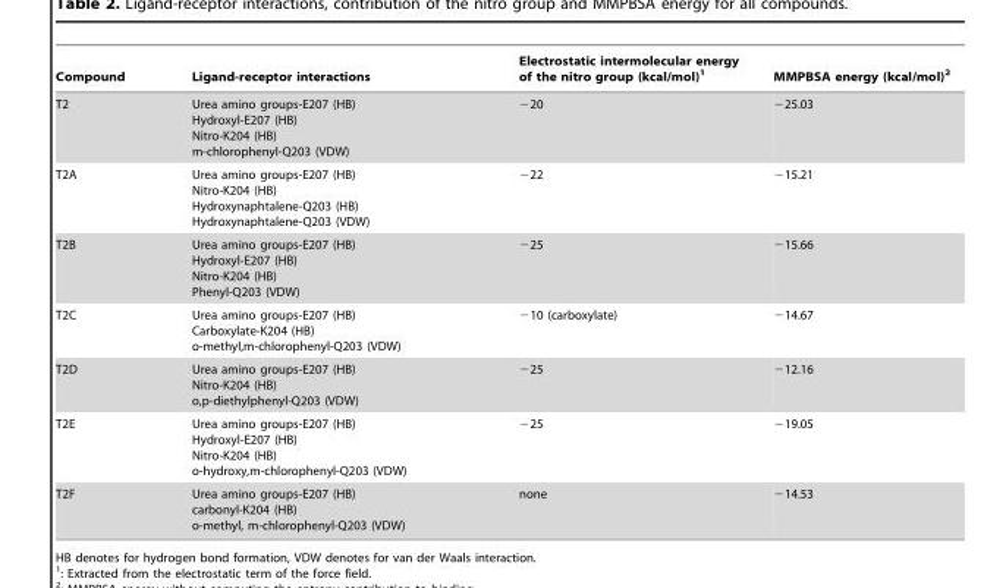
<table><thead><tr><td>Compound</td><td>Ligand-receptor interactions</td><td>Electrostatic intermolecular energy of the nitro group (kcal/mol)<sup>1</sup></td><td>MMPBSA energy (kcal/mol)<sup>2</sup></td></tr></thead><tbody><tr><td>T2</td><td>Urea amino groups-E207 (HB) Hydroxyl-E207 (HB) Nitro-K204 (HB) m-chlorophenyl-Q203 (VDW)</td><td>−20</td><td>−25.03</td></tr><tr><td>T2A</td><td>Urea amino groups-E207 (HB) Nitro-K204 (HB) Hydroxynaphtalene-Q203 (HB) Hydroxynaphtalene-Q203 (VDW)</td><td>−22</td><td>−15.21</td></tr><tr><td>T2B</td><td>Urea amino groups-E207 (HB) Hydroxyl-E207 (HB) Nitro-K204 (HB) Phenyl-Q203 (VDW)</td><td>−25</td><td>−15.66</td></tr><tr><td>T2C</td><td>Urea amino groups-E207 (HB) Carboxylate-K204 (HB) o-methyl,m-chlorophenyl-Q203 (VDW)</td><td>−10 (carboxylate)</td><td>−14.67</td></tr><tr><td>T2D</td><td>Urea amino groups-E207 (HB) Nitro-K204 (HB) o,p-diethylphenyl-Q203 (VDW)</td><td>−25</td><td>−12.16</td></tr><tr><td>T2E</td><td>Urea amino groups-E207 (HB) Hydroxyl-E207 (HB) Nitro-K204 (HB) o-hydroxy,m-chlorophenyl-Q203 (VDW)</td><td>−25</td><td>−19.05</td></tr><tr><td>T2F</td><td>Urea amino groups-E207 (HB) carbonyl-K204 (HB) o-methyl, m-chlorophenyl-Q203 (VDW)</td><td>none</td><td>−14.53</td></tr></tbody></table>